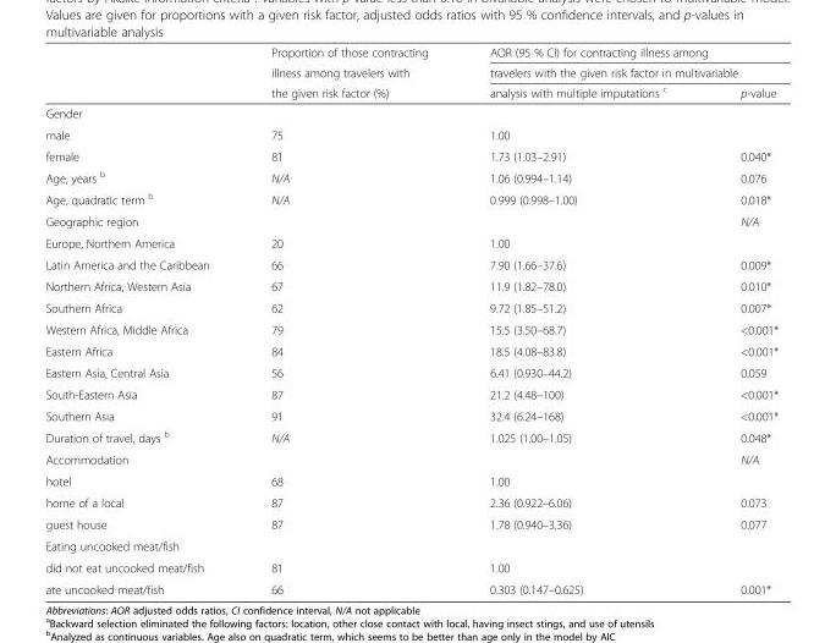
<table><thead><tr><td rowspan="3"></td><td rowspan="3">Proportion of those contracting illness among travelers with the given risk factor (%)</td><td rowspan="2" colspan="2">AOR (95 % CI) for contracting illness among travelers with the given risk factor in multivariable</td></tr><tr></tr><tr><td>analysis with multiple imputations <sup>c</sup></td><td>p-value</td></tr></thead><tbody><tr><td colspan="4">Gender</td></tr><tr><td>male</td><td>75</td><td>1.00</td><td></td></tr><tr><td>female</td><td>81</td><td>1.73 (1.03–2.91)</td><td>0.040*</td></tr><tr><td>Age, years <sup>b</sup></td><td>N/A</td><td>1.06 (0.994–1.14)</td><td>0.076</td></tr><tr><td>Age, quadratic term <sup>b</sup></td><td>N/A</td><td>0.999 (0.998–1.00)</td><td>0.018*</td></tr><tr><td>Geographic region</td><td></td><td></td><td>N/A</td></tr><tr><td>Europe, Northern America</td><td>20</td><td>1.00</td><td></td></tr><tr><td>Latin America and the Caribbean</td><td>66</td><td>7.90 (1.66–37.6)</td><td>0.009*</td></tr><tr><td>Northern Africa, Western Asia</td><td>67</td><td>11.9 (1.82–78.0)</td><td>0.010*</td></tr><tr><td>Southern Africa</td><td>62</td><td>9.72 (1.85–51.2)</td><td>0.007*</td></tr><tr><td>Western Africa, Middle Africa</td><td>79</td><td>15.5 (3.50–68.7)</td><td>&lt;0.001*</td></tr><tr><td>Eastern Africa</td><td>84</td><td>18.5 (4.08–83.8)</td><td>&lt;0.001*</td></tr><tr><td>Eastern Asia, Central Asia</td><td>56</td><td>6.41 (0.930–44.2)</td><td>0.059</td></tr><tr><td>South-Eastern Asia</td><td>87</td><td>21.2 (4.48–100)</td><td>&lt;0.001*</td></tr><tr><td>Southern Asia</td><td>91</td><td>32.4 (6.24–168)</td><td>&lt;0.001*</td></tr><tr><td>Duration of travel, days <sup>b</sup></td><td>N/A</td><td>1.025 (1.00–1.05)</td><td>0.048*</td></tr><tr><td>Accommodation</td><td></td><td></td><td>N/A</td></tr><tr><td>hotel</td><td>68</td><td>1.00</td><td></td></tr><tr><td>home of a local</td><td>87</td><td>2.36 (0.922–6.06)</td><td>0.073</td></tr><tr><td>guest house</td><td>87</td><td>1.78 (0.940–3.36)</td><td>0.077</td></tr><tr><td colspan="4">Eating uncooked meat/fish</td></tr><tr><td>did not eat uncooked meat/fish</td><td>81</td><td>1.00</td><td></td></tr><tr><td>ate uncooked meat/fish</td><td>66</td><td>0.303 (0.147–0.625)</td><td>0.001*</td></tr></tbody></table>